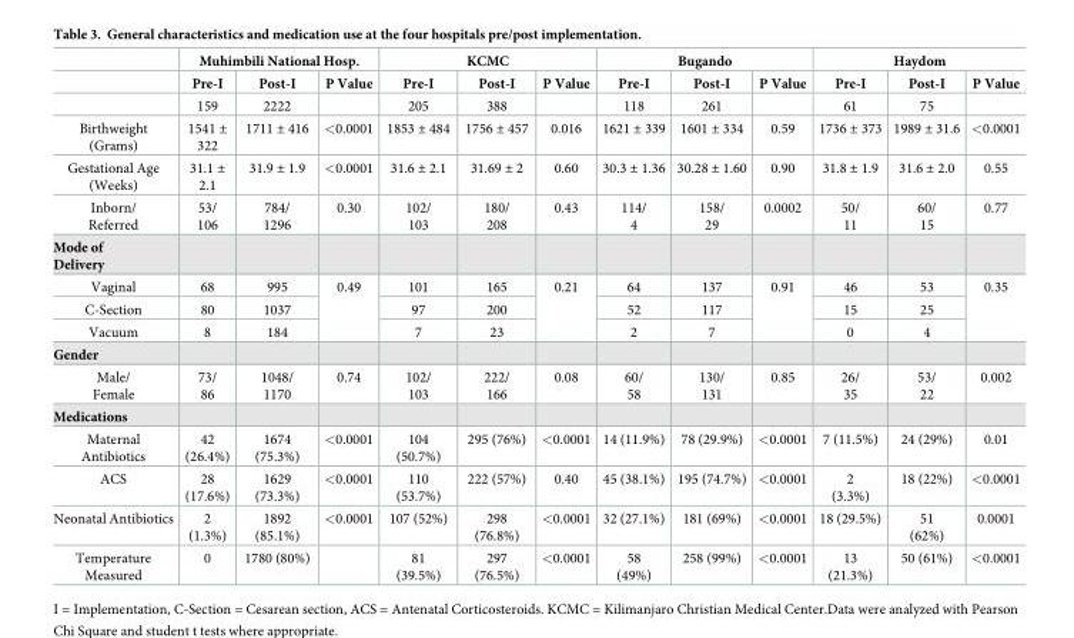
<table><thead><tr><td rowspan="2"></td><td colspan="3">Muhimbili National Hosp.</td><td colspan="3">KCMC</td><td colspan="3">Bugando</td><td colspan="3">Haydom</td></tr><tr><td>Pre-I</td><td>Post-I</td><td>P Value</td><td>Pre-I</td><td>Post-I</td><td>P Value</td><td>Pre-I</td><td>Post-I</td><td>P Value</td><td>Pre-I</td><td>Post-I</td><td>P Value</td></tr></thead><tbody><tr><td></td><td>159</td><td>2222</td><td></td><td>205</td><td>388</td><td></td><td>118</td><td>261</td><td></td><td>61</td><td>75</td><td></td></tr><tr><td>Birthweight (Grams)</td><td>1541 ± 322</td><td>1711 ± 416</td><td>&lt;0.0001</td><td>1853 ± 484</td><td>1756 ± 457</td><td>0.016</td><td>1621 ± 339</td><td>1601 ± 334</td><td>0.59</td><td>1736 ± 373</td><td>1989 ± 31.6</td><td>&lt;0.0001</td></tr><tr><td>Gestational Age (Weeks)</td><td>31.1 ± 2.1</td><td>31.9 ± 1.9</td><td>&lt;0.0001</td><td>31.6 ± 2.1</td><td>31.69 ± 2</td><td>0.60</td><td>30.3 ± 1.36</td><td>30.28 ± 1.60</td><td>0.90</td><td>31.8 ± 1.9</td><td>31.6 ± 2.0</td><td>0.55</td></tr><tr><td>Inborn/ Referred</td><td>53/ 106</td><td>784/ 1296</td><td>0.30</td><td>102/ 103</td><td>180/ 208</td><td>0.43</td><td>114/ 4</td><td>158/ 29</td><td>0.0002</td><td>50/ 11</td><td>60/ 15</td><td>0.77</td></tr><tr><td colspan="13">Mode of Delivery</td></tr><tr><td>Vaginal</td><td>68</td><td>995</td><td rowspan="3">0.49</td><td>101</td><td>165</td><td rowspan="3">0.21</td><td>64</td><td>137</td><td rowspan="3">0.91</td><td>46</td><td>53</td><td rowspan="3">0.35</td></tr><tr><td>C-Section</td><td>80</td><td>1037</td><td>97</td><td>200</td><td>52</td><td>117</td><td>15</td><td>25</td></tr><tr><td>Vacuum</td><td>8</td><td>184</td><td>7</td><td>23</td><td>2</td><td>7</td><td>0</td><td>4</td></tr><tr><td colspan="13">Gender</td></tr><tr><td>Male/ Female</td><td>73/ 86</td><td>1048/ 1170</td><td>0.74</td><td>102/ 103</td><td>222/ 166</td><td>0.08</td><td>60/ 58</td><td>130/ 131</td><td>0.85</td><td>26/ 35</td><td>53/ 22</td><td>0.002</td></tr><tr><td colspan="13">Medications</td></tr><tr><td>Maternal Antibiotics</td><td>42 (26.4%)</td><td>1674 (75.3%)</td><td>&lt;0.0001</td><td>104 (50.7%)</td><td>295 (76%)</td><td>&lt;0.0001</td><td>14 (11.9%)</td><td>78 (29.9%)</td><td>&lt;0.0001</td><td>7 (11.5%)</td><td>24 (29%)</td><td>0.01</td></tr><tr><td>ACS</td><td>28 (17.6%)</td><td>1629 (73.3%)</td><td>&lt;0.0001</td><td>110 (53.7%)</td><td>222 (57%)</td><td>0.40</td><td>45 (38.1%)</td><td>195 (74.7%)</td><td>&lt;0.0001</td><td>2 (3.3%)</td><td>18 (22%)</td><td>&lt;0.0001</td></tr><tr><td>Neonatal Antibiotics</td><td>2 (1.3%)</td><td>1892 (85.1%)</td><td>&lt;0.0001</td><td>107 (52%)</td><td>298 (76.8%)</td><td>&lt;0.0001</td><td>32 (27.1%)</td><td>181 (69%)</td><td>&lt;0.0001</td><td>18 (29.5%)</td><td>51 (62%)</td><td>0.0001</td></tr><tr><td>Temperature Measured</td><td>0</td><td>1780 (80%)</td><td></td><td>81 (39.5%)</td><td>297 (76.5%)</td><td>&lt;0.0001</td><td>58 (49%)</td><td>258 (99%)</td><td>&lt;0.0001</td><td>13 (21.3%)</td><td>50 (61%)</td><td>&lt;0.0001</td></tr></tbody></table>